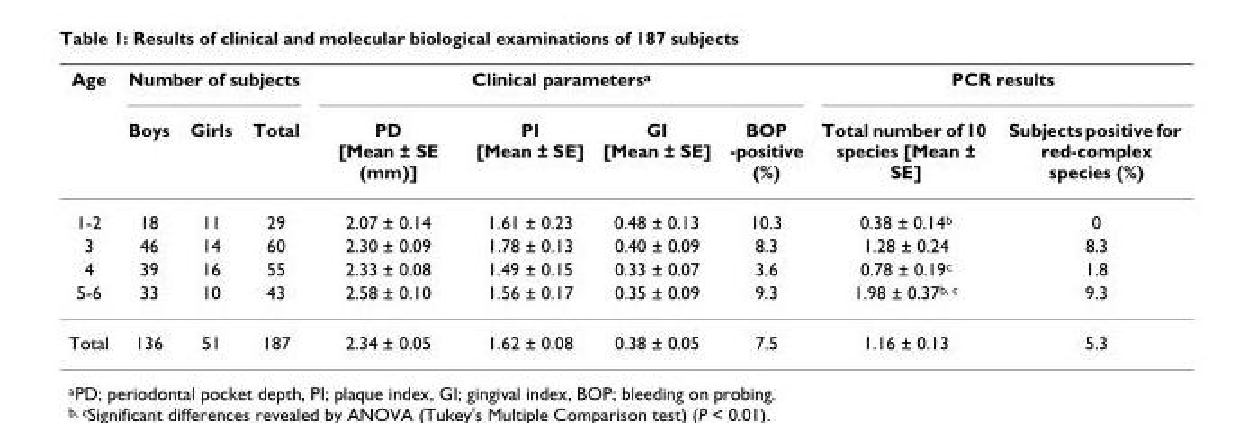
<table><thead><tr><td rowspan="2">Age</td><td colspan="3">Number of subjects</td><td colspan="4">Clinical parameters<sup>a</sup></td><td colspan="2">PCR results</td></tr><tr><td>Boys</td><td>Girls</td><td>Total</td><td>PD [Mean ± SE (mm)]</td><td>PI [Mean ± SE]</td><td>GI [Mean ± SE]</td><td>BOP -positive (%)</td><td>Total number of 10 species [Mean ± SE]</td><td>Subjects positive for red-complex species (%)</td></tr></thead><tbody><tr><td>1-2</td><td>18</td><td>11</td><td>29</td><td>2.07 ± 0.14</td><td>1.61 ± 0.23</td><td>0.48 ± 0.13</td><td>10.3</td><td>0.38 ± 0.14<sup>b</sup></td><td>0</td></tr><tr><td>3</td><td>46</td><td>14</td><td>60</td><td>2.30 ± 0.09</td><td>1.78 ± 0.13</td><td>0.40 ± 0.09</td><td>8.3</td><td>1.28 ± 0.24</td><td>8.3</td></tr><tr><td>4</td><td>39</td><td>16</td><td>55</td><td>2.33 ± 0.08</td><td>1.49 ± 0.15</td><td>0.33 ± 0.07</td><td>3.6</td><td>0.78 ± 0.19<sup>c</sup></td><td>1.8</td></tr><tr><td>5-6</td><td>33</td><td>10</td><td>43</td><td>2.58 ± 0.10</td><td>1.56 ± 0.17</td><td>0.35 ± 0.09</td><td>9.3</td><td>1.98 ± 0.37<sup>b, c</sup></td><td>9.3</td></tr><tr><td>Total</td><td>136</td><td>51</td><td>187</td><td>2.34 ± 0.05</td><td>1.62 ± 0.08</td><td>0.38 ± 0.05</td><td>7.5</td><td>1.16 ± 0.13</td><td>5.3</td></tr></tbody></table>